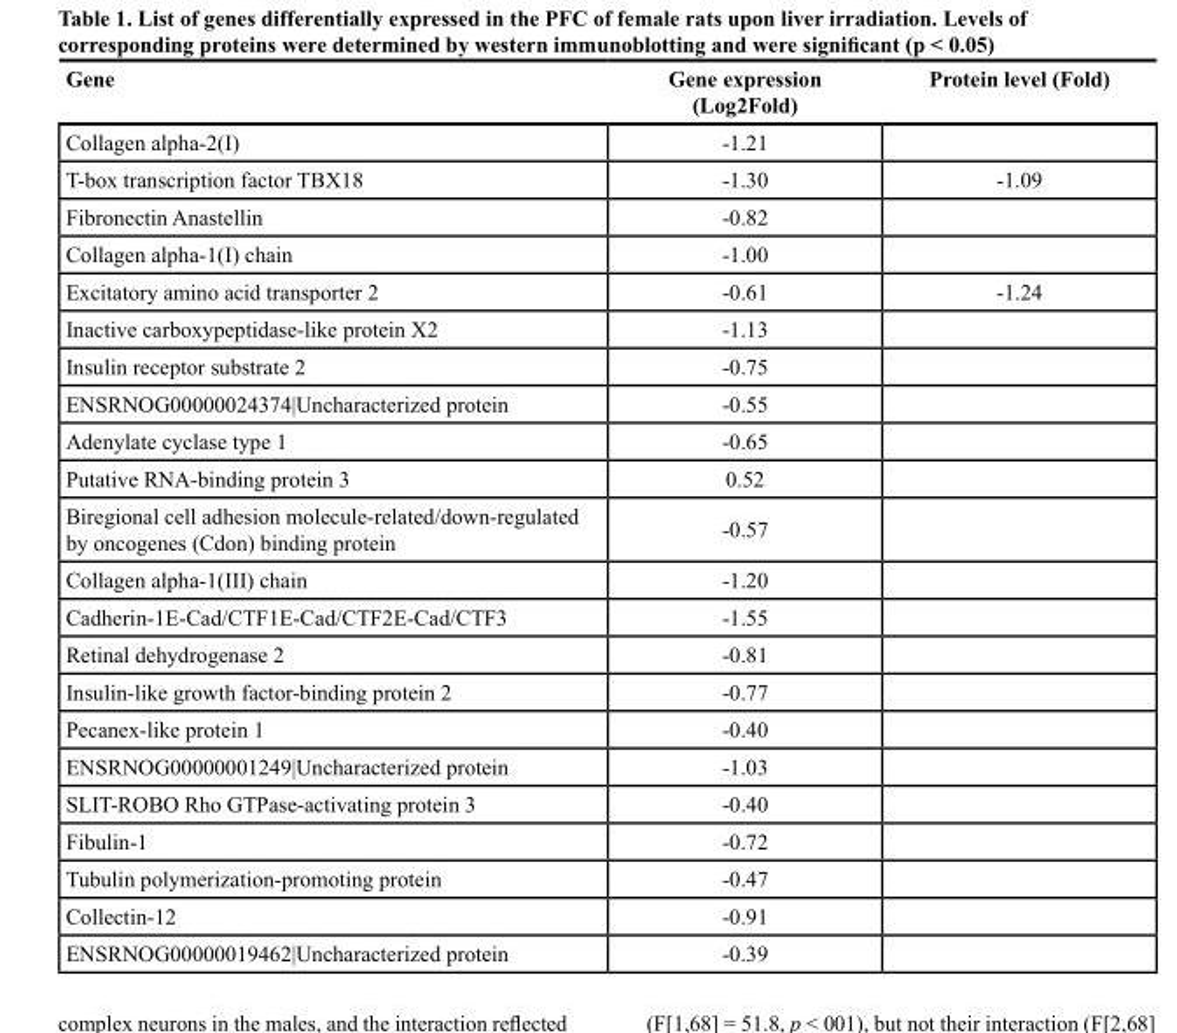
<table><thead><tr><td>Gene</td><td>Gene expression (Log2Fold)</td><td>Protein level (Fold)</td></tr></thead><tbody><tr><td>Collagen alpha-2(I)</td><td>-1.21</td><td></td></tr><tr><td>T-box transcription factor TBX18</td><td>-1.30</td><td>-1.09</td></tr><tr><td>Fibronectin Anastellin</td><td>-0.82</td><td></td></tr><tr><td>Collagen alpha-1(I) chain</td><td>-1.00</td><td></td></tr><tr><td>Excitatory amino acid transporter 2</td><td>-0.61</td><td>-1.24</td></tr><tr><td>Inactive carboxypeptidase-like protein X2</td><td>-1.13</td><td></td></tr><tr><td>Insulin receptor substrate 2</td><td>-0.75</td><td></td></tr><tr><td>ENSRNOG00000024374|Uncharacterized protein</td><td>-0.55</td><td></td></tr><tr><td>Adenylate cyclase type 1</td><td>-0.65</td><td></td></tr><tr><td>Putative RNA-binding protein 3</td><td>0.52</td><td></td></tr><tr><td>Biregional cell adhesion molecule-related/down-regulated by oncogenes (Cdon) binding protein</td><td>-0.57</td><td></td></tr><tr><td>Collagen alpha-1(III) chain</td><td>-1.20</td><td></td></tr><tr><td>Cadherin-1E-Cad/CTF1E-Cad/CTF2E-Cad/CTF3</td><td>-1.55</td><td></td></tr><tr><td>Retinal dehydrogenase 2</td><td>-0.81</td><td></td></tr><tr><td>Insulin-like growth factor-binding protein 2</td><td>-0.77</td><td></td></tr><tr><td>Pecanex-like protein 1</td><td>-0.40</td><td></td></tr><tr><td>ENSRNOG00000001249|Uncharacterized protein</td><td>-1.03</td><td></td></tr><tr><td>SLIT-ROBO Rho GTPase-activating protein 3</td><td>-0.40</td><td></td></tr><tr><td>Fibulin-1</td><td>-0.72</td><td></td></tr><tr><td>Tubulin polymerization-promoting protein</td><td>-0.47</td><td></td></tr><tr><td>Collectin-12</td><td>-0.91</td><td></td></tr><tr><td>ENSRNOG00000019462|Uncharacterized protein</td><td>-0.39</td><td></td></tr></tbody></table>